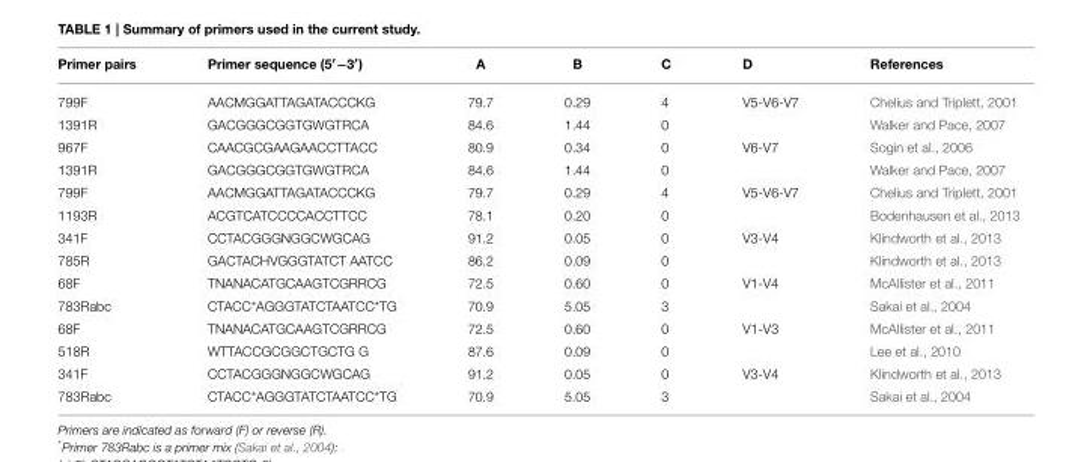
<table><thead><tr><td>Primer pairs</td><td>Primer sequence (5′−3′)</td><td>A</td><td>B</td><td>C</td><td>D</td><td>References</td></tr></thead><tbody><tr><td>799F</td><td>AACMGGATTAGATACCCKG</td><td>79.7</td><td>0.29</td><td>4</td><td>V5-V6-V7</td><td>Chelius and Triplett, 2001</td></tr><tr><td>1391R</td><td>GACGGGCGGTGWGTRCA</td><td>84.6</td><td>1.44</td><td>0</td><td></td><td>Walker and Pace, 2007</td></tr><tr><td>967F</td><td>CAACGCGAAGAACCTTACC</td><td>80.9</td><td>0.34</td><td>0</td><td>V6-V7</td><td>Sogin et al., 2006</td></tr><tr><td>1391R</td><td>GACGGGCGGTGWGTRCA</td><td>84.6</td><td>1.44</td><td>0</td><td></td><td>Walker and Pace, 2007</td></tr><tr><td>799F</td><td>AACMGGATTAGATACCCKG</td><td>79.7</td><td>0.29</td><td>4</td><td>V5-V6-V7</td><td>Chelius and Triplett, 2001</td></tr><tr><td>1193R</td><td>ACGTCATCCCCACCTTCC</td><td>78.1</td><td>0.20</td><td>0</td><td></td><td>Bodenhausen et al., 2013</td></tr><tr><td>341F</td><td>CCTACGGGNGGCWGCAG</td><td>91.2</td><td>0.05</td><td>0</td><td>V3-V4</td><td>Klindworth et al., 2013</td></tr><tr><td>785R</td><td>GACTACHVGGGTATCT AATCC</td><td>86.2</td><td>0.09</td><td>0</td><td></td><td>Klindworth et al., 2013</td></tr><tr><td>68F</td><td>TNANACATGCAAGTCGRRCG</td><td>72.5</td><td>0.60</td><td>0</td><td>V1-V4</td><td>McAllister et al., 2011</td></tr><tr><td>783Rabc</td><td>CTACC*AGGGTATCTAATCC*TG</td><td>70.9</td><td>5.05</td><td>3</td><td></td><td>Sakai et al., 2004</td></tr><tr><td>68F</td><td>TNANACATGCAAGTCGRRCG</td><td>72.5</td><td>0.60</td><td>0</td><td>V1-V3</td><td>McAllister et al., 2011</td></tr><tr><td>518R</td><td>WTTACCGCGGCTGCTG G</td><td>87.6</td><td>0.09</td><td>0</td><td></td><td>Lee et al., 2010</td></tr><tr><td>341F</td><td>CCTACGGGNGGCWGCAG</td><td>91.2</td><td>0.05</td><td>0</td><td>V3-V4</td><td>Klindworth et al., 2013</td></tr><tr><td>783Rabc</td><td>CTACC*AGGGTATCTAATCC*TG</td><td>70.9</td><td>5.05</td><td>3</td><td></td><td>Sakai et al., 2004</td></tr></tbody></table>